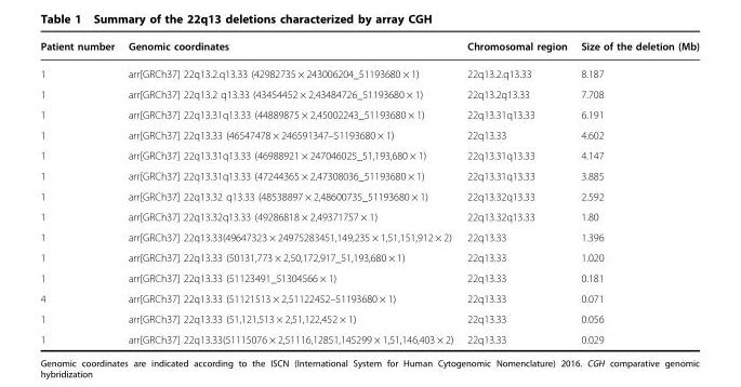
<table><thead><tr><td>Patient number</td><td>Genomic coordinates</td><td>Chromosomal region</td><td>Size of the deletion (Mb)</td></tr></thead><tbody><tr><td>1</td><td>arr[GRCh37] 22q13.2.q13.33 (42982735 × 243006204_51193680 × 1)</td><td>22q13.2.q13.33</td><td>8.187</td></tr><tr><td>1</td><td>arr[GRCh37] 22q13.2 q13.33 (43454452 × 2,43484726_51193680 × 1)</td><td>22q13.2q13.33</td><td>7.708</td></tr><tr><td>1</td><td>arr[GRCh37] 22q13.31q13.33 (44889875 × 2,45002243_51193680 × 1)</td><td>22q13.31q13.33</td><td>6.191</td></tr><tr><td>1</td><td>arr[GRCh37] 22q13.33 (46547478 × 246591347–51193680 × 1)</td><td>22q13.33</td><td>4.602</td></tr><tr><td>1</td><td>arr[GRCh37] 22q13.31q13.33 (46988921 × 247046025_51,193,680 × 1)</td><td>22q13.31q13.33</td><td>4.147</td></tr><tr><td>1</td><td>arr[GRCh37] 22q13.31q13.33 (47244365 × 2,47308036_51193680 × 1)</td><td>22q13.31q13.33</td><td>3.885</td></tr><tr><td>1</td><td>arr[GRCh37] 22q13.32 q13.33 (48538897 × 2,48600735_51193680 × 1)</td><td>22q13.32q13.33</td><td>2.592</td></tr><tr><td>1</td><td>arr[GRCh37] 22q13.32q13.33 (49286818 × 2,49371757 × 1)</td><td>22q13.32q13.33</td><td>1.80</td></tr><tr><td>1</td><td>arr[GRCh37] 22q13.33(49647323 × 24975283451,149,235 × 1,51,151,912 × 2)</td><td>22q13.33</td><td>1.396</td></tr><tr><td>1</td><td>arr[GRCh37] 22q13.33 (50131,773 × 2,50,172,917_51,193,680 × 1)</td><td>22q13.33</td><td>1.020</td></tr><tr><td>1</td><td>arr[GRCh37] 22q13.33 (51123491_51304566 × 1)</td><td>22q13.33</td><td>0.181</td></tr><tr><td>4</td><td>arr[GRCh37] 22q13.33 (51121513 × 2,51122452–51193680 × 1)</td><td>22q13.33</td><td>0.071</td></tr><tr><td>1</td><td>arr[GRCh37] 22q13.33 (51,121,513 × 2,51,122,452 × 1)</td><td>22q13.33</td><td>0.056</td></tr><tr><td>1</td><td>arr[GRCh37] 22q13.33(51115076 × 2,51116,12851,145299 × 1,51,146,403 × 2)</td><td>22q13.33</td><td>0.029</td></tr></tbody></table>